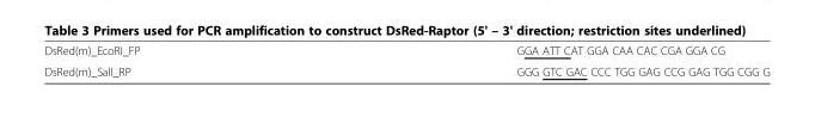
<table><tbody><tr><td>DsRed(m)_EcoRI_FP</td><td>GGA ATT CAT GGA CAA CAC CGA GGA CG</td></tr><tr><td>DsRed(m)_SalI_RP</td><td>GGG GTC GAC CCC TGG GAG CCG GAG TGG CGG G</td></tr></tbody></table>